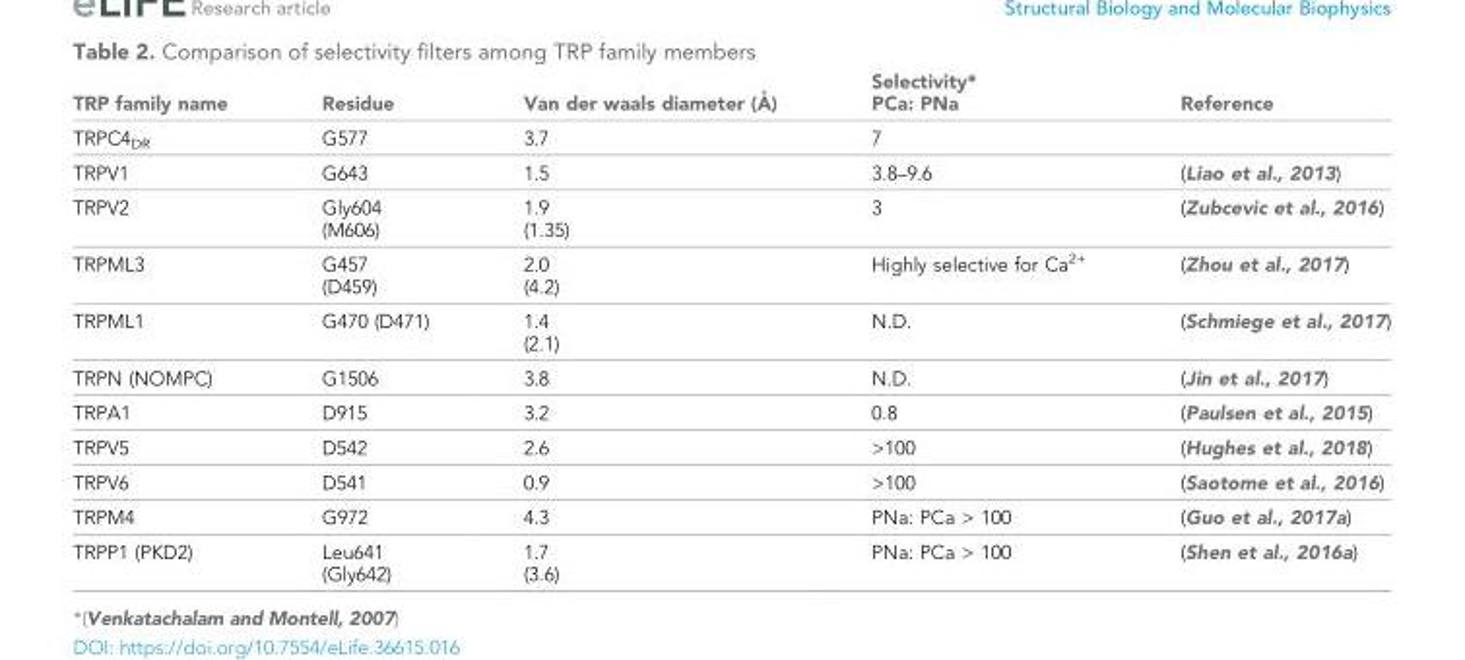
<table><thead><tr><td>TRP family name</td><td>Residue</td><td>Van der waals diameter (A˚ )</td><td>Selectivity* PCa: PNa</td><td>Reference</td></tr></thead><tbody><tr><td>TRPC4<sub>DR</sub></td><td>G577</td><td>3.7</td><td>7</td><td></td></tr><tr><td>TRPV1</td><td>G643</td><td>1.5</td><td>3.8–9.6</td><td>(Liao et al., 2013)</td></tr><tr><td>TRPV2</td><td>Gly604 (M606)</td><td>1.9 (1.35)</td><td>3</td><td>(Zubcevic et al., 2016)</td></tr><tr><td>TRPML3</td><td>G457 (D459)</td><td>2.0 (4.2)</td><td>Highly selective for Ca<sup>2+</sup></td><td>(Zhou et al., 2017)</td></tr><tr><td>TRPML1</td><td>G470 (D471)</td><td>1.4 (2.1)</td><td>N.D.</td><td>(Schmiege et al., 2017)</td></tr><tr><td>TRPN (NOMPC)</td><td>G1506</td><td>3.8</td><td>N.D.</td><td>(Jin et al., 2017)</td></tr><tr><td>TRPA1</td><td>D915</td><td>3.2</td><td>0.8</td><td>(Paulsen et al., 2015)</td></tr><tr><td>TRPV5</td><td>D542</td><td>2.6</td><td>&gt;100</td><td>(Hughes et al., 2018)</td></tr><tr><td>TRPV6</td><td>D541</td><td>0.9</td><td>&gt;100</td><td>(Saotome et al., 2016)</td></tr><tr><td>TRPM4</td><td>G972</td><td>4.3</td><td>PNa: PCa &gt; 100</td><td>(Guo et al., 2017a)</td></tr><tr><td>TRPP1 (PKD2)</td><td>Leu641 (Gly642)</td><td>1.7 (3.6)</td><td>PNa: PCa &gt; 100</td><td>(Shen et al., 2016a)</td></tr></tbody></table>